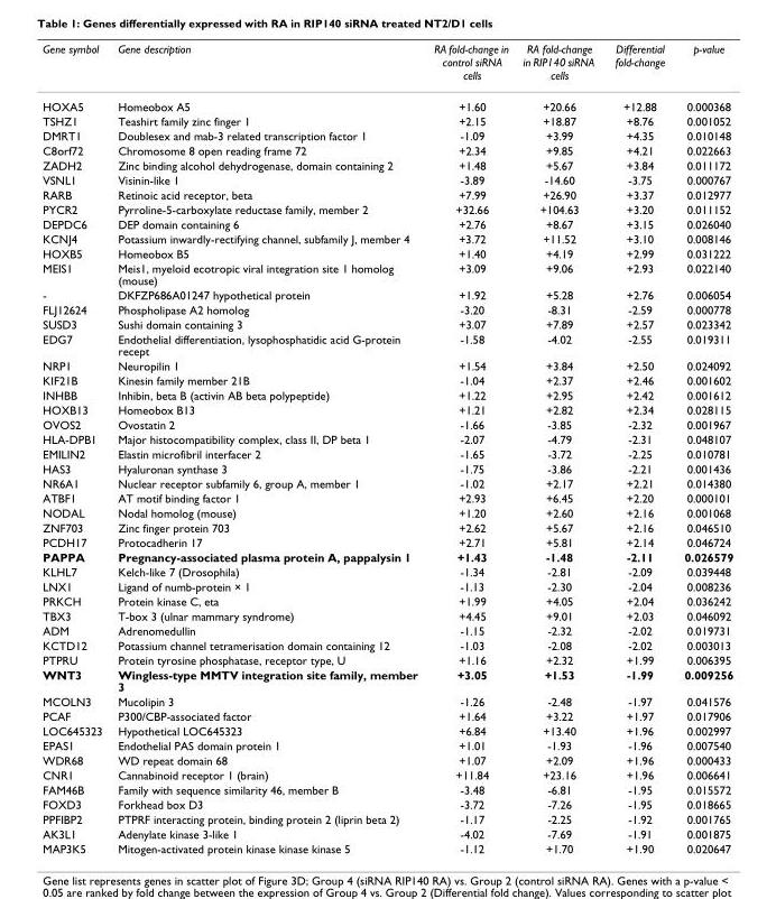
<table><thead><tr><td>Gene symbol</td><td>Gene description</td><td>RA fold-change in control siRNA cells</td><td>RA fold-change in RIP140 siRNA cells</td><td>Differential fold-change</td><td>p-value</td></tr></thead><tbody><tr><td>HOXA5</td><td>Homeobox A5</td><td>+1.60</td><td>+20.66</td><td>+12.88</td><td>0.000368</td></tr><tr><td>TSHZ1</td><td>Teashirt family zinc finger 1</td><td>+2.15</td><td>+18.87</td><td>+8.76</td><td>0.001052</td></tr><tr><td>DMRT1</td><td>Doublesex and mab-3 related transcription factor 1</td><td>-1.09</td><td>+3.99</td><td>+4.35</td><td>0.010148</td></tr><tr><td>C8orf72</td><td>Chromosome 8 open reading frame 72</td><td>+2.34</td><td>+9.85</td><td>+4.21</td><td>0.022663</td></tr><tr><td>ZADH2</td><td>Zinc binding alcohol dehydrogenase, domain containing 2</td><td>+1.48</td><td>+5.67</td><td>+3.84</td><td>0.011172</td></tr><tr><td>VSNL1</td><td>Visinin-like 1</td><td>-3.89</td><td>-14.60</td><td>-3.75</td><td>0.000767</td></tr><tr><td>RARB</td><td>Retinoic acid receptor, beta</td><td>+7.99</td><td>+26.90</td><td>+3.37</td><td>0.012977</td></tr><tr><td>PYCR2</td><td>Pyrroline-5-carboxylate reductase family, member 2</td><td>+32.66</td><td>+104.63</td><td>+3.20</td><td>0.011152</td></tr><tr><td>DEPDC6</td><td>DEP domain containing 6</td><td>+2.76</td><td>+8.67</td><td>+3.15</td><td>0.026040</td></tr><tr><td>KCNJ4</td><td>Potassium inwardly-rectifying channel, subfamily J, member 4</td><td>+3.72</td><td>+11.52</td><td>+3.10</td><td>0.008146</td></tr><tr><td>HOXB5</td><td>Homeobox B5</td><td>+1.40</td><td>+4.19</td><td>+2.99</td><td>0.031222</td></tr><tr><td>MEIS1</td><td>Meis1, myeloid ecotropic viral integration site 1 homolog (mouse)</td><td>+3.09</td><td>+9.06</td><td>+2.93</td><td>0.022140</td></tr><tr><td>-</td><td>DKFZP686A01247 hypothetical protein</td><td>+1.92</td><td>+5.28</td><td>+2.76</td><td>0.006054</td></tr><tr><td>FLJ12624</td><td>Phospholipase A2 homolog</td><td>-3.20</td><td>-8.31</td><td>-2.59</td><td>0.000778</td></tr><tr><td>SUSD3</td><td>Sushi domain containing 3</td><td>+3.07</td><td>+7.89</td><td>+2.57</td><td>0.023342</td></tr><tr><td>EDG7</td><td>Endothelial differentiation, lysophosphatidic acid G-protein recept</td><td>-1.58</td><td>-4.02</td><td>-2.55</td><td>0.019311</td></tr><tr><td>NRP1</td><td>Neuropilin 1</td><td>+1.54</td><td>+3.84</td><td>+2.50</td><td>0.024092</td></tr><tr><td>KIF21B</td><td>Kinesin family member 21B</td><td>-1.04</td><td>+2.37</td><td>+2.46</td><td>0.001602</td></tr><tr><td>INHBB</td><td>Inhibin, beta B (activin AB beta polypeptide)</td><td>+1.22</td><td>+2.95</td><td>+2.42</td><td>0.001612</td></tr><tr><td>HOXB13</td><td>Homeobox B13</td><td>+1.21</td><td>+2.82</td><td>+2.34</td><td>0.028115</td></tr><tr><td>OVOS2</td><td>Ovostatin 2</td><td>-1.66</td><td>-3.85</td><td>-2.32</td><td>0.001967</td></tr><tr><td>HLA-DPB1</td><td>Major histocompatibility complex, class II, DP beta 1</td><td>-2.07</td><td>-4.79</td><td>-2.31</td><td>0.048107</td></tr><tr><td>EMILIN2</td><td>Elastin microfibril interfacer 2</td><td>-1.65</td><td>-3.72</td><td>-2.25</td><td>0.010781</td></tr><tr><td>HAS3</td><td>Hyaluronan synthase 3</td><td>-1.75</td><td>-3.86</td><td>-2.21</td><td>0.001436</td></tr><tr><td>NR6A1</td><td>Nuclear receptor subfamily 6, group A, member 1</td><td>-1.02</td><td>+2.17</td><td>+2.21</td><td>0.014380</td></tr><tr><td>ATBF1</td><td>AT motif binding factor 1</td><td>+2.93</td><td>+6.45</td><td>+2.20</td><td>0.000101</td></tr><tr><td>NODAL</td><td>Nodal homolog (mouse)</td><td>+1.20</td><td>+2.60</td><td>+2.16</td><td>0.001068</td></tr><tr><td>ZNF703</td><td>Zinc finger protein 703</td><td>+2.62</td><td>+5.67</td><td>+2.16</td><td>0.046510</td></tr><tr><td>PCDH17</td><td>Protocadherin 17</td><td>+2.71</td><td>+5.81</td><td>+2.14</td><td>0.046724</td></tr><tr><td>PAPPA</td><td>Pregnancy-associated plasma protein A, pappalysin 1</td><td>+1.43</td><td>-1.48</td><td>-2.11</td><td>0.026579</td></tr><tr><td>KLHL7</td><td>Kelch-like 7 (Drosophila)</td><td>-1.34</td><td>-2.81</td><td>-2.09</td><td>0.039448</td></tr><tr><td>LNX1</td><td>Ligand of numb-protein × 1</td><td>-1.13</td><td>-2.30</td><td>-2.04</td><td>0.008236</td></tr><tr><td>PRKCH</td><td>Protein kinase C, eta</td><td>+1.99</td><td>+4.05</td><td>+2.04</td><td>0.036242</td></tr><tr><td>TBX3</td><td>T-box 3 (ulnar mammary syndrome)</td><td>+4.45</td><td>+9.01</td><td>+2.03</td><td>0.046092</td></tr><tr><td>ADM</td><td>Adrenomedullin</td><td>-1.15</td><td>-2.32</td><td>-2.02</td><td>0.019731</td></tr><tr><td>KCTD12</td><td>Potassium channel tetramerisation domain containing 12</td><td>-1.03</td><td>-2.08</td><td>-2.02</td><td>0.003013</td></tr><tr><td>PTPRU</td><td>Protein tyrosine phosphatase, receptor type, U</td><td>+1.16</td><td>+2.32</td><td>+1.99</td><td>0.006395</td></tr><tr><td>WNT3</td><td>Wingless-type MMTV integration site family, member 3</td><td>+3.05</td><td>+1.53</td><td>-1.99</td><td>0.009256</td></tr><tr><td>MCOLN3</td><td>Mucolipin 3</td><td>-1.26</td><td>-2.48</td><td>-1.97</td><td>0.041576</td></tr><tr><td>PCAF</td><td>P300/CBP-associated factor</td><td>+1.64</td><td>+3.22</td><td>+1.97</td><td>0.017906</td></tr><tr><td>LOC645323</td><td>Hypothetical LOC645323</td><td>+6.84</td><td>+13.40</td><td>+1.96</td><td>0.002997</td></tr><tr><td>EPAS1</td><td>Endothelial PAS domain protein 1</td><td>+1.01</td><td>-1.93</td><td>-1.96</td><td>0.007540</td></tr><tr><td>WDR68</td><td>WD repeat domain 68</td><td>+1.07</td><td>+2.09</td><td>+1.96</td><td>0.000433</td></tr><tr><td>CNR1</td><td>Cannabinoid receptor 1 (brain)</td><td>+11.84</td><td>+23.16</td><td>+1.96</td><td>0.006641</td></tr><tr><td>FAM46B</td><td>Family with sequence similarity 46, member B</td><td>-3.48</td><td>-6.81</td><td>-1.95</td><td>0.015572</td></tr><tr><td>FOXD3</td><td>Forkhead box D3</td><td>-3.72</td><td>-7.26</td><td>-1.95</td><td>0.018665</td></tr><tr><td>PPFIBP2</td><td>PTPRF interacting protein, binding protein 2 (liprin beta 2)</td><td>-1.17</td><td>-2.25</td><td>-1.92</td><td>0.001765</td></tr><tr><td>AK3L1</td><td>Adenylate kinase 3-like 1</td><td>-4.02</td><td>-7.69</td><td>-1.91</td><td>0.001875</td></tr><tr><td>MAP3K5</td><td>Mitogen-activated protein kinase kinase kinase 5</td><td>-1.12</td><td>+1.70</td><td>+1.90</td><td>0.020647</td></tr></tbody></table>